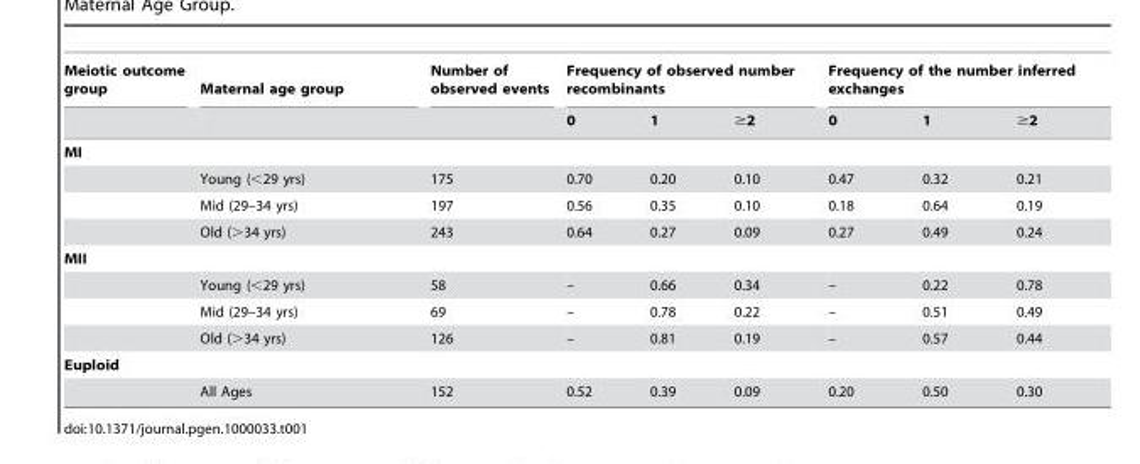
<table><thead><tr><td rowspan="2">Meiotic outcome group</td><td rowspan="2">Maternal age group</td><td rowspan="2">Number of observed events</td><td colspan="3">Frequency of observed number recombinants</td><td colspan="3">Frequency of the number inferred exchanges</td></tr><tr><td>0</td><td>1</td><td>≥2</td><td>0</td><td>1</td><td>≥2</td></tr></thead><tbody><tr><td colspan="9">MI</td></tr><tr><td></td><td>Young (&lt;29 yrs)</td><td>175</td><td>0.70</td><td>0.20</td><td>0.10</td><td>0.47</td><td>0.32</td><td>0.21</td></tr><tr><td></td><td>Mid (29–34 yrs)</td><td>197</td><td>0.56</td><td>0.35</td><td>0.10</td><td>0.18</td><td>0.64</td><td>0.19</td></tr><tr><td></td><td>Old (&gt;34 yrs)</td><td>243</td><td>0.64</td><td>0.27</td><td>0.09</td><td>0.27</td><td>0.49</td><td>0.24</td></tr><tr><td colspan="9">MII</td></tr><tr><td></td><td>Young (&lt;29 yrs)</td><td>58</td><td>–</td><td>0.66</td><td>0.34</td><td>–</td><td>0.22</td><td>0.78</td></tr><tr><td></td><td>Mid (29–34 yrs)</td><td>69</td><td>–</td><td>0.78</td><td>0.22</td><td>–</td><td>0.51</td><td>0.49</td></tr><tr><td></td><td>Old (&gt;34 yrs)</td><td>126</td><td>–</td><td>0.81</td><td>0.19</td><td>–</td><td>0.57</td><td>0.44</td></tr><tr><td colspan="9">Euploid</td></tr><tr><td></td><td>All Ages</td><td>152</td><td>0.52</td><td>0.39</td><td>0.09</td><td>0.20</td><td>0.50</td><td>0.30</td></tr></tbody></table>